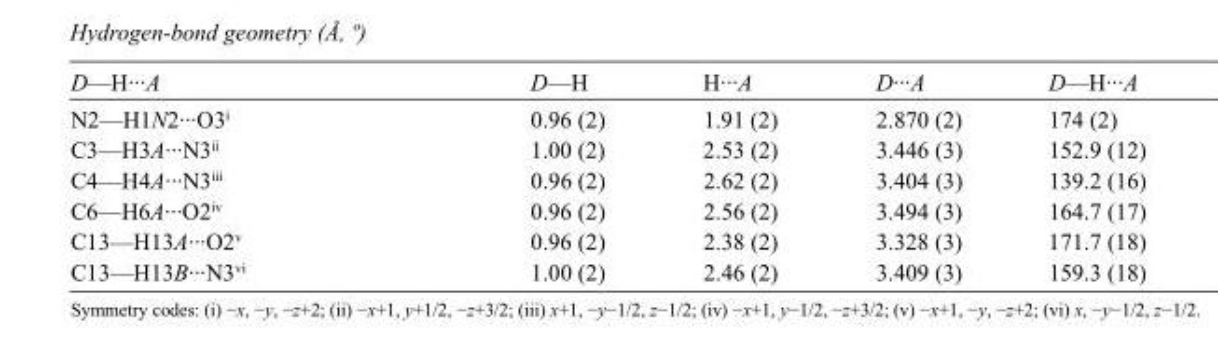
<table><tbody><tr><td>D—H···A</td><td>D—H</td><td>H···A</td><td>D···A</td><td>D—H···A</td></tr><tr><td>N2—H1N2···O3<sup>i</sup></td><td>0.96 (2)</td><td>1.91 (2)</td><td>2.870 (2)</td><td>174 (2)</td></tr><tr><td>C3—H3A···N3<sup>ii</sup></td><td>1.00 (2)</td><td>2.53 (2)</td><td>3.446 (3)</td><td>152.9 (12)</td></tr><tr><td>C4—H4A···N3<sup>iii</sup></td><td>0.96 (2)</td><td>2.62 (2)</td><td>3.404 (3)</td><td>139.2 (16)</td></tr><tr><td>C6—H6A···O2<sup>iv</sup></td><td>0.96 (2)</td><td>2.56 (2)</td><td>3.494 (3)</td><td>164.7 (17)</td></tr><tr><td>C13—H13A···O2<sup>v</sup></td><td>0.96 (2)</td><td>2.38 (2)</td><td>3.328 (3)</td><td>171.7 (18)</td></tr><tr><td>C13—H13B···N3<sup>vi</sup></td><td>1.00 (2)</td><td>2.46 (2)</td><td>3.409 (3)</td><td>159.3 (18)</td></tr></tbody></table>